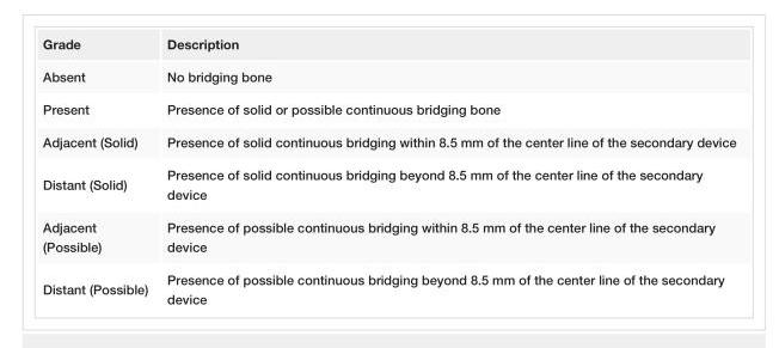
<table><tbody><tr><td>Grade</td><td>Description</td></tr><tr><td>Absent</td><td>No bridging bone</td></tr><tr><td>Present</td><td>Presence of solid or possible continuous bridging bone</td></tr><tr><td>Adjacent (Solid)</td><td>Presence of solid continuous bridging within 8.5 mm of the center line of the secondary device</td></tr><tr><td>Distant (Solid)</td><td>Presence of solid continuous bridging beyond 8.5 mm of the center line of the secondary device</td></tr><tr><td>Adjacent (Possible)</td><td>Presence of possible continuous bridging within 8.5 mm of the center line of the secondary device</td></tr><tr><td>Distant (Possible)</td><td>Presence of possible continuous bridging beyond 8.5 mm of the center line of the secondary device</td></tr></tbody></table>